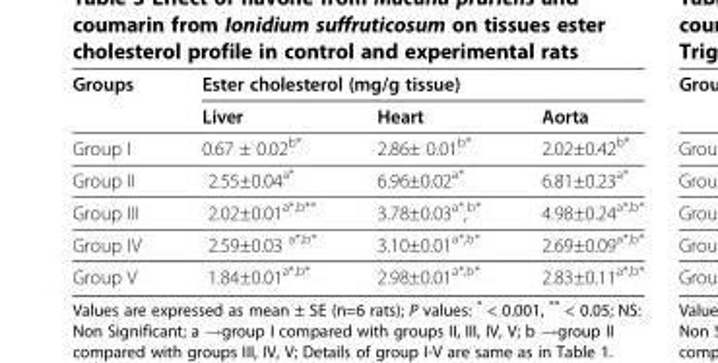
<table><thead><tr><td rowspan="2">Groups</td><td colspan="3">Ester cholesterol (mg/g tissue)</td></tr><tr><td>Liver</td><td>Heart</td><td>Aorta</td></tr></thead><tbody><tr><td>Group I</td><td>0.67 ± 0.02<sup>b*</sup></td><td>2.86± 0.01<sup>b*</sup></td><td>2.02±0.42<sup>b*</sup></td></tr><tr><td>Group II</td><td>2.55±0.04<sup>a*</sup></td><td>6.96±0.02<sup>a*</sup></td><td>6.81±0.23<sup>a*</sup></td></tr><tr><td>Group III</td><td>2.02±0.01<sup>a*,b**</sup></td><td>3.78±0.03<sup>a*</sup>,<sup>b*</sup></td><td>4.98±0.24<sup>a*,b*</sup></td></tr><tr><td>Group IV</td><td>2.59±0.03 <sup>a*,b*</sup></td><td>3.10±0.01<sup>a*,b*</sup></td><td>2.69±0.09<sup>a*,b*</sup></td></tr><tr><td>Group V</td><td>1.84±0.01<sup>a*,b*</sup></td><td>2.98±0.01<sup>a*,b*</sup></td><td>2.83±0.11<sup>a*,b*</sup></td></tr></tbody></table>